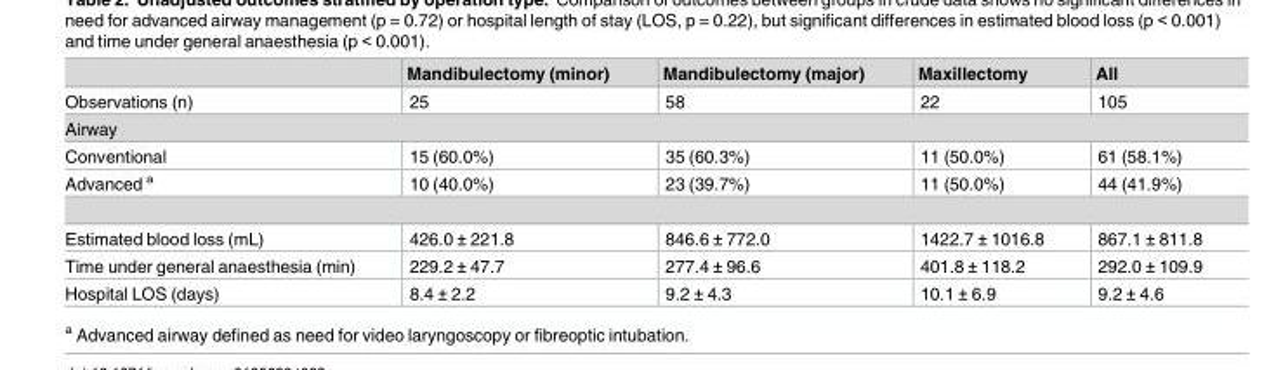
<table><thead><tr><td></td><td>Mandibulectomy (minor)</td><td>Mandibulectomy (major)</td><td>Maxillectomy</td><td>All</td></tr></thead><tbody><tr><td>Observations (n)</td><td>25</td><td>58</td><td>22</td><td>105</td></tr><tr><td colspan="5">Airway</td></tr><tr><td>Conventional</td><td>15 (60.0%)</td><td>35 (60.3%)</td><td>11 (50.0%)</td><td>61 (58.1%)</td></tr><tr><td>Advanced <sup>a</sup></td><td>10 (40.0%)</td><td>23 (39.7%)</td><td>11 (50.0%)</td><td>44 (41.9%)</td></tr><tr><td>Estimated blood loss (mL)</td><td>426.0 ± 221.8</td><td>846.6 ± 772.0</td><td>1422.7 ± 1016.8</td><td>867.1 ± 811.8</td></tr><tr><td>Time under general anaesthesia (min)</td><td>229.2 ± 47.7</td><td>277.4 ± 96.6</td><td>401.8 ± 118.2</td><td>292.0 ± 109.9</td></tr><tr><td>Hospital LOS (days)</td><td>8.4 ± 2.2</td><td>9.2 ± 4.3</td><td>10.1 ± 6.9</td><td>9.2 ± 4.6</td></tr></tbody></table>